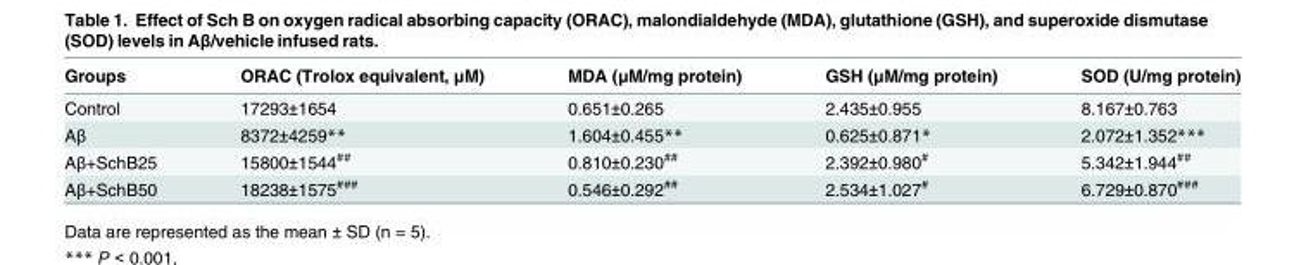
<table><thead><tr><td>Groups</td><td>ORAC (Trolox equivalent, μM)</td><td>MDA (μM/mg protein)</td><td>GSH (μM/mg protein)</td><td>SOD (U/mg protein)</td></tr></thead><tbody><tr><td>Control</td><td>17293±1654</td><td>0.651±0.265</td><td>2.435±0.955</td><td>8.167±0.763</td></tr><tr><td>Aβ</td><td>8372±4259**</td><td>1.604±0.455**</td><td>0.625±0.871*</td><td>2.072±1.352***</td></tr><tr><td>Aβ+SchB25</td><td>15800±1544<sup>##</sup></td><td>0.810±0.230<sup>##</sup></td><td>2.392±0.980<sup>#</sup></td><td>5.342±1.944<sup>##</sup></td></tr><tr><td>Aβ+SchB50</td><td>18238±1575<sup>###</sup></td><td>0.546±0.292<sup>##</sup></td><td>2.534±1.027<sup>#</sup></td><td>6.729±0.870<sup>###</sup></td></tr></tbody></table>